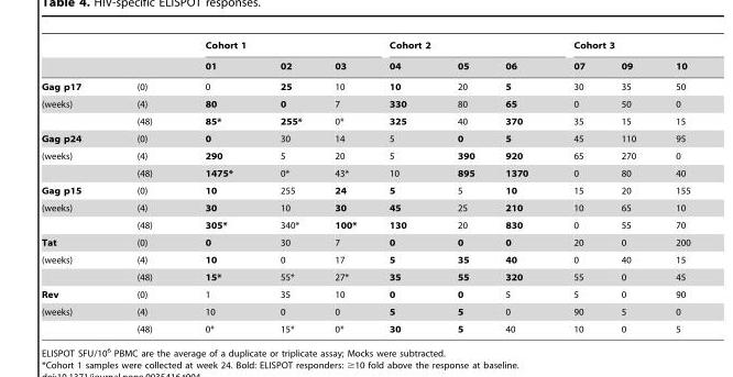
<table><thead><tr><td rowspan="2"></td><td rowspan="2"></td><td colspan="3">Cohort 1</td><td colspan="3">Cohort 2</td><td colspan="3">Cohort 3</td></tr><tr><td>01</td><td>02</td><td>03</td><td>04</td><td>05</td><td>06</td><td>07</td><td>09</td><td>10</td></tr></thead><tbody><tr><td>Gag p17</td><td>(0)</td><td>0</td><td>25</td><td>10</td><td>10</td><td>20</td><td>5</td><td>30</td><td>35</td><td>50</td></tr><tr><td rowspan="2">(weeks)</td><td>(4)</td><td>80</td><td>0</td><td>7</td><td>330</td><td>80</td><td>65</td><td>0</td><td>50</td><td>0</td></tr><tr><td>(48)</td><td>85*</td><td>255*</td><td>0*</td><td>325</td><td>40</td><td>370</td><td>35</td><td>15</td><td>15</td></tr><tr><td>Gag p24</td><td>(0)</td><td>0</td><td>30</td><td>14</td><td>5</td><td>0</td><td>5</td><td>45</td><td>110</td><td>95</td></tr><tr><td rowspan="2">(weeks)</td><td>(4)</td><td>290</td><td>5</td><td>20</td><td>5</td><td>390</td><td>920</td><td>65</td><td>270</td><td>0</td></tr><tr><td>(48)</td><td>1475*</td><td>0*</td><td>43*</td><td>10</td><td>895</td><td>1370</td><td>0</td><td>80</td><td>40</td></tr><tr><td>Gag p15</td><td>(0)</td><td>10</td><td>255</td><td>24</td><td>5</td><td>5</td><td>10</td><td>15</td><td>20</td><td>155</td></tr><tr><td rowspan="2">(weeks)</td><td>(4)</td><td>30</td><td>10</td><td>30</td><td>45</td><td>25</td><td>210</td><td>10</td><td>65</td><td>10</td></tr><tr><td>(48)</td><td>305*</td><td>340*</td><td>100*</td><td>130</td><td>20</td><td>830</td><td>0</td><td>55</td><td>70</td></tr><tr><td>Tat</td><td>(0)</td><td>0</td><td>30</td><td>7</td><td>0</td><td>0</td><td>0</td><td>20</td><td>0</td><td>200</td></tr><tr><td rowspan="2">(weeks)</td><td>(4)</td><td>10</td><td>0</td><td>17</td><td>5</td><td>35</td><td>40</td><td>0</td><td>40</td><td>15</td></tr><tr><td>(48)</td><td>15*</td><td>55*</td><td>27*</td><td>35</td><td>55</td><td>320</td><td>55</td><td>0</td><td>45</td></tr><tr><td>Rev</td><td>(0)</td><td>1</td><td>35</td><td>10</td><td>0</td><td>0</td><td>5</td><td>5</td><td>0</td><td>90</td></tr><tr><td rowspan="2">(weeks)</td><td>(4)</td><td>10</td><td>0</td><td>0</td><td>5</td><td>5</td><td>0</td><td>90</td><td>5</td><td>0</td></tr><tr><td>(48)</td><td>0*</td><td>15*</td><td>0*</td><td>30</td><td>5</td><td>40</td><td>10</td><td>0</td><td>5</td></tr></tbody></table>